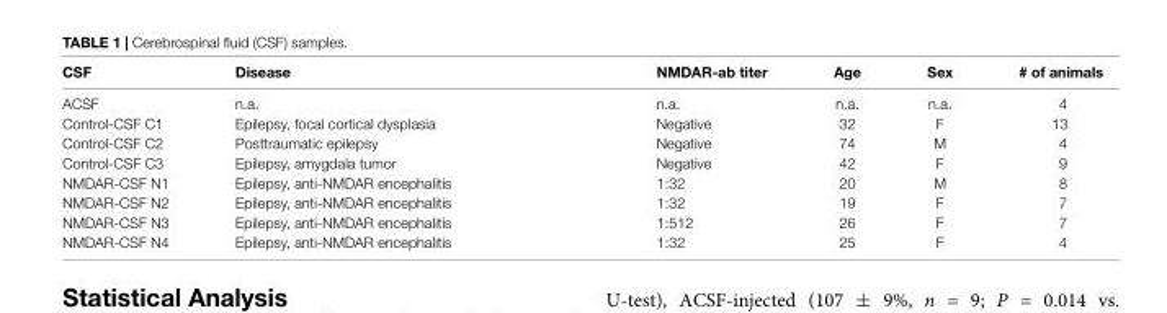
<table><thead><tr><td>CSF</td><td>Disease</td><td>NMDAR-ab titer</td><td>Age</td><td>Sex</td><td># of animals</td></tr></thead><tbody><tr><td>ACSF</td><td>n.a.</td><td>n.a.</td><td>n.a.</td><td>n.a.</td><td>4</td></tr><tr><td>Control-CSF C1</td><td>Epilepsy, focal cortical dysplasia</td><td>Negative</td><td>32</td><td>F</td><td>13</td></tr><tr><td>Control-CSF C2</td><td>Posttraumatic epilepsy</td><td>Negative</td><td>74</td><td>M</td><td>4</td></tr><tr><td>Control-CSF C3</td><td>Epilepsy, amygdala tumor</td><td>Negative</td><td>42</td><td>F</td><td>9</td></tr><tr><td>NMDAR-CSF N1</td><td>Epilepsy, anti-NMDAR encephalitis</td><td>1:32</td><td>20</td><td>M</td><td>8</td></tr><tr><td>NMDAR-CSF N2</td><td>Epilepsy, anti-NMDAR encephalitis</td><td>1:32</td><td>19</td><td>F</td><td>7</td></tr><tr><td>NMDAR-CSF N3</td><td>Epilepsy, anti-NMDAR encephalitis</td><td>1:512</td><td>26</td><td>F</td><td>7</td></tr><tr><td>NMDAR-CSF N4</td><td>Epilepsy, anti-NMDAR encephalitis</td><td>1:32</td><td>25</td><td>F</td><td>4</td></tr></tbody></table>